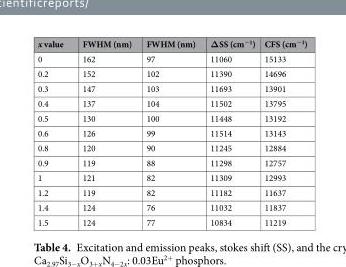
<table><thead><tr><td>x value</td><td>FWHM (nm)</td><td>FWHM (nm)</td><td>ΔSS (cm<sup>−1</sup>)</td><td>CFS (cm<sup>−1</sup>)</td></tr></thead><tbody><tr><td>0</td><td>162</td><td>97</td><td>11060</td><td>15133</td></tr><tr><td>0.2</td><td>152</td><td>102</td><td>11390</td><td>14696</td></tr><tr><td>0.3</td><td>147</td><td>103</td><td>11693</td><td>13901</td></tr><tr><td>0.4</td><td>137</td><td>104</td><td>11502</td><td>13795</td></tr><tr><td>0.5</td><td>130</td><td>100</td><td>11448</td><td>13192</td></tr><tr><td>0.6</td><td>126</td><td>99</td><td>11514</td><td>13143</td></tr><tr><td>0.8</td><td>120</td><td>90</td><td>11245</td><td>12884</td></tr><tr><td>0.9</td><td>119</td><td>88</td><td>11298</td><td>12757</td></tr><tr><td>1</td><td>121</td><td>82</td><td>11309</td><td>12993</td></tr><tr><td>1.2</td><td>119</td><td>82</td><td>11182</td><td>11637</td></tr><tr><td>1.4</td><td>124</td><td>76</td><td>11032</td><td>11837</td></tr><tr><td>1.5</td><td>124</td><td>77</td><td>10834</td><td>11219</td></tr></tbody></table>